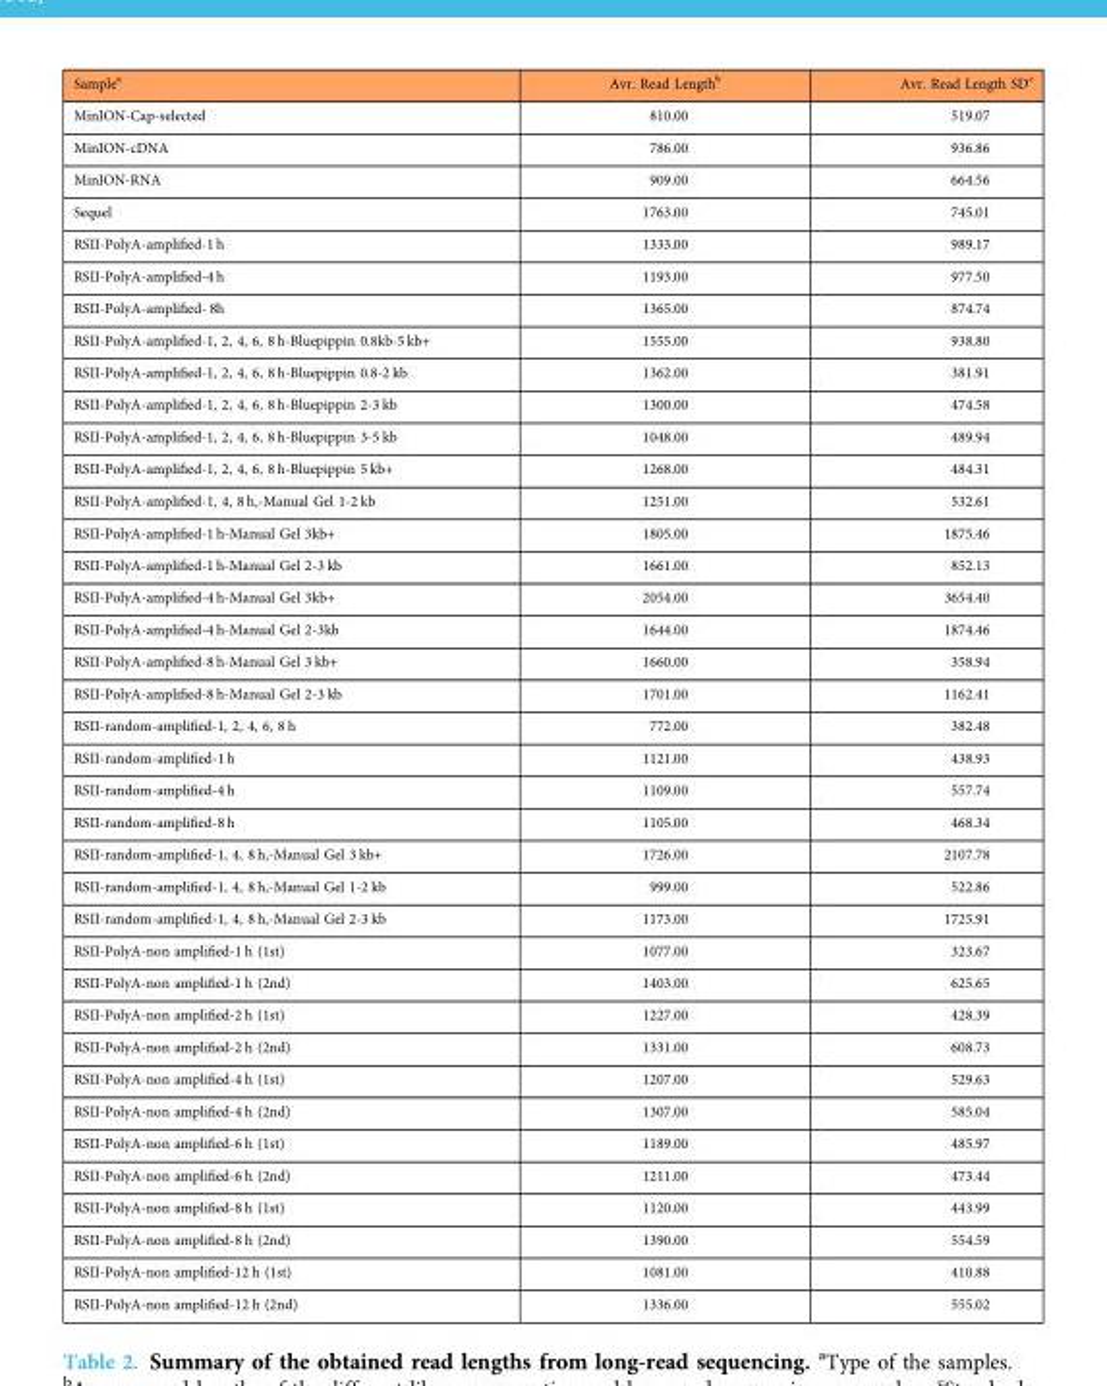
<table><thead><tr><td>Sample<sup>a</sup></td><td>Avr. Read Length<sup>b</sup></td><td>Avr. Read Length SD<sup>c</sup></td></tr></thead><tbody><tr><td>MinION-Cap-selected</td><td>810.00</td><td>519.07</td></tr><tr><td>MinION-cDNA</td><td>786.00</td><td>936.86</td></tr><tr><td>MinION-RNA</td><td>909.00</td><td>664.56</td></tr><tr><td>Sequel</td><td>1763.00</td><td>745.01</td></tr><tr><td>RSII-PolyA-amplified-1 h</td><td>1333.00</td><td>989.17</td></tr><tr><td>RSII-PolyA-amplified-4 h</td><td>1193.00</td><td>977.50</td></tr><tr><td>RSII-PolyA-amplified- 8h</td><td>1365.00</td><td>874.74</td></tr><tr><td>RSII-PolyA-amplified-1, 2, 4, 6, 8 h-Bluepippin 0.8kb-5 kb+</td><td>1555.00</td><td>938.80</td></tr><tr><td>RSII-PolyA-amplified-1, 2, 4, 6, 8 h-Bluepippin 0.8-2 kb</td><td>1362.00</td><td>381.91</td></tr><tr><td>RSII-PolyA-amplified-1, 2, 4, 6, 8 h-Bluepippin 2-3 kb</td><td>1300.00</td><td>474.58</td></tr><tr><td>RSII-PolyA-amplified-1, 2, 4, 6, 8 h-Bluepippin 3-5 kb</td><td>1048.00</td><td>489.94</td></tr><tr><td>RSII-PolyA-amplified-1, 2, 4, 6, 8 h-Bluepippin 5 kb+</td><td>1268.00</td><td>484.31</td></tr><tr><td>RSII-PolyA-amplified-1, 4, 8 h,-Manual Gel 1-2 kb</td><td>1251.00</td><td>532.61</td></tr><tr><td>RSII-PolyA-amplified-1 h-Manual Gel 3kb+</td><td>1805.00</td><td>1875.46</td></tr><tr><td>RSII-PolyA-amplified-1 h-Manual Gel 2-3 kb</td><td>1661.00</td><td>852.13</td></tr><tr><td>RSII-PolyA-amplified-4 h-Manual Gel 3kb+</td><td>2054.00</td><td>3654.40</td></tr><tr><td>RSII-PolyA-amplified-4 h-Manual Gel 2-3kb</td><td>1644.00</td><td>1874.46</td></tr><tr><td>RSII-PolyA-amplified-8 h-Manual Gel 3 kb+</td><td>1660.00</td><td>358.94</td></tr><tr><td>RSII-PolyA-amplified-8 h-Manual Gel 2-3 kb</td><td>1701.00</td><td>1162.41</td></tr><tr><td>RSII-random-amplified-1, 2, 4, 6, 8 h</td><td>772.00</td><td>382.48</td></tr><tr><td>RSII-random-amplified-1 h</td><td>1121.00</td><td>438.93</td></tr><tr><td>RSII-random-amplified-4 h</td><td>1109.00</td><td>557.74</td></tr><tr><td>RSII-random-amplified-8 h</td><td>1105.00</td><td>468.34</td></tr><tr><td>RSII-random-amplified-1, 4, 8 h,-Manual Gel 3 kb+</td><td>1726.00</td><td>2107.78</td></tr><tr><td>RSII-random-amplified-1, 4, 8 h,-Manual Gel 1-2 kb</td><td>999.00</td><td>522.86</td></tr><tr><td>RSII-random-amplified-1, 4, 8 h,-Manual Gel 2-3 kb</td><td>1173.00</td><td>1725.91</td></tr><tr><td>RSII-PolyA-non amplified-1 h (1st)</td><td>1077.00</td><td>323.67</td></tr><tr><td>RSII-PolyA-non amplified-1 h (2nd)</td><td>1403.00</td><td>625.65</td></tr><tr><td>RSII-PolyA-non amplified-2 h (1st)</td><td>1227.00</td><td>428.39</td></tr><tr><td>RSII-PolyA-non amplified-2 h (2nd)</td><td>1331.00</td><td>608.73</td></tr><tr><td>RSII-PolyA-non amplified-4 h (1st)</td><td>1207.00</td><td>529.63</td></tr><tr><td>RSII-PolyA-non amplified-4 h (2nd)</td><td>1307.00</td><td>585.04</td></tr><tr><td>RSII-PolyA-non amplified-6 h (1st)</td><td>1189.00</td><td>485.97</td></tr><tr><td>RSII-PolyA-non amplified-6 h (2nd)</td><td>1211.00</td><td>473.44</td></tr><tr><td>RSII-PolyA-non amplified-8 h (1st)</td><td>1120.00</td><td>443.99</td></tr><tr><td>RSII-PolyA-non amplified-8 h (2nd)</td><td>1390.00</td><td>554.59</td></tr><tr><td>RSII-PolyA-non amplified-12 h (1st)</td><td>1081.00</td><td>410.88</td></tr><tr><td>RSII-PolyA-non amplified-12 h (2nd)</td><td>1336.00</td><td>555.02</td></tr></tbody></table>